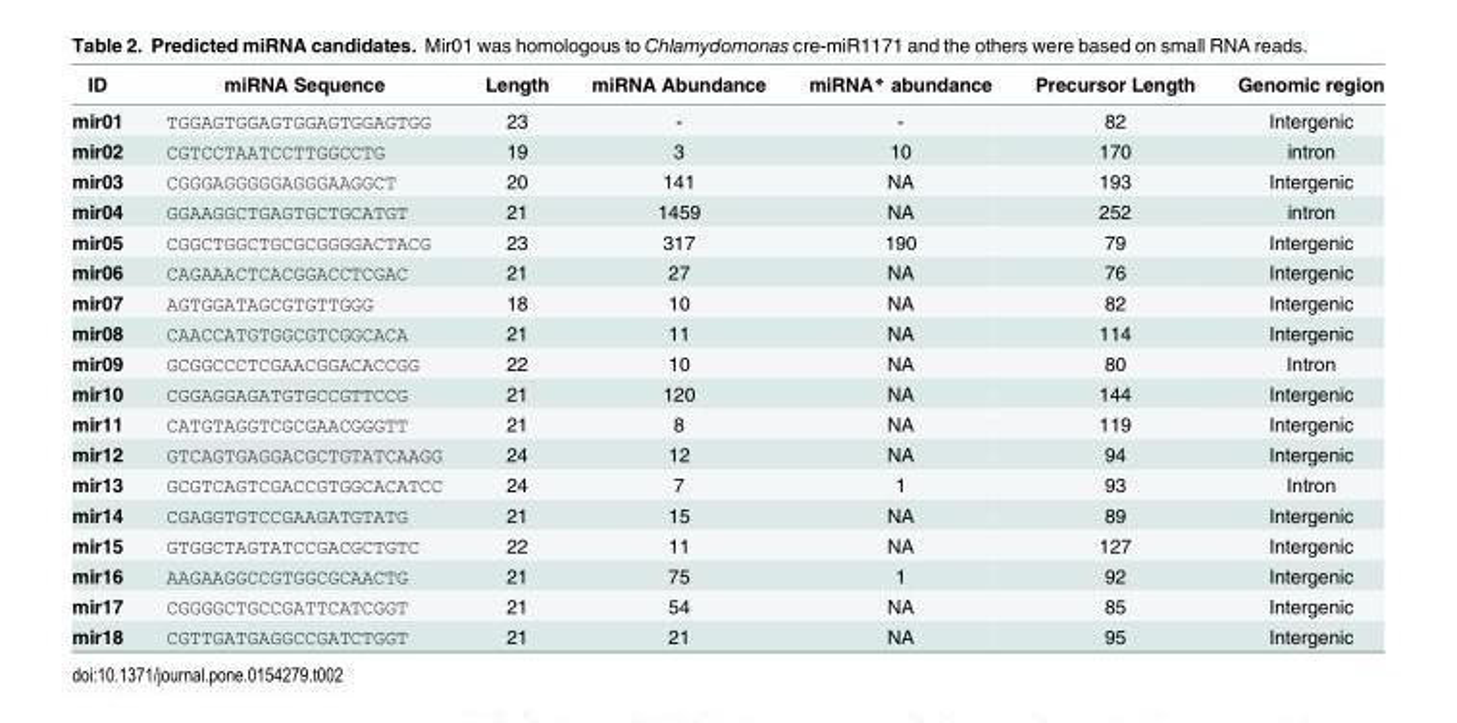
<table><thead><tr><td>ID</td><td>miRNA Sequence</td><td>Length</td><td>miRNA Abundance</td><td>miRNA* abundance</td><td>Precursor Length</td><td>Genomic region</td></tr></thead><tbody><tr><td>mir01</td><td>TGGAGTGGAGTGGAGTGGAGTGG</td><td>23</td><td>-</td><td>-</td><td>82</td><td>Intergenic</td></tr><tr><td>mir02</td><td>CGTCCTAATCCTTGGCCTG</td><td>19</td><td>3</td><td>10</td><td>170</td><td>intron</td></tr><tr><td>mir03</td><td>CGGGAGGGGGAGGGAAGGCT</td><td>20</td><td>141</td><td>NA</td><td>193</td><td>Intergenic</td></tr><tr><td>mir04</td><td>GGAAGGCTGAGTGCTGCATGT</td><td>21</td><td>1459</td><td>NA</td><td>252</td><td>intron</td></tr><tr><td>mir05</td><td>CGGCTGGCTGCGCGGGGACTACG</td><td>23</td><td>317</td><td>190</td><td>79</td><td>Intergenic</td></tr><tr><td>mir06</td><td>CAGAAACTCACGGACCTCGAC</td><td>21</td><td>27</td><td>NA</td><td>76</td><td>Intergenic</td></tr><tr><td>mir07</td><td>AGTGGATAGCGTGTTGGG</td><td>18</td><td>10</td><td>NA</td><td>82</td><td>Intergenic</td></tr><tr><td>mir08</td><td>CAACCATGTGGCGTCGGCACA</td><td>21</td><td>11</td><td>NA</td><td>114</td><td>Intergenic</td></tr><tr><td>mir09</td><td>GCGGCCCTCGAACGGACACCGG</td><td>22</td><td>10</td><td>NA</td><td>80</td><td>Intron</td></tr><tr><td>mir10</td><td>CGGAGGAGATGTGCCGTTCCG</td><td>21</td><td>120</td><td>NA</td><td>144</td><td>Intergenic</td></tr><tr><td>mir11</td><td>CATGTAGGTCGCGAACGGGTT</td><td>21</td><td>8</td><td>NA</td><td>119</td><td>Intergenic</td></tr><tr><td>mir12</td><td>GTCAGTGAGGACGCTGTATCAAGG</td><td>24</td><td>12</td><td>NA</td><td>94</td><td>Intergenic</td></tr><tr><td>mir13</td><td>GCGTCAGTCGACCGTGGCACATCC</td><td>24</td><td>7</td><td>1</td><td>93</td><td>Intron</td></tr><tr><td>mir14</td><td>CGAGGTGTCCGAAGATGTATG</td><td>21</td><td>15</td><td>NA</td><td>89</td><td>Intergenic</td></tr><tr><td>mir15</td><td>GTGGCTAGTATCCGACGCTGTC</td><td>22</td><td>11</td><td>NA</td><td>127</td><td>Intergenic</td></tr><tr><td>mir16</td><td>AAGAAGGCCGTGGCGCAACTG</td><td>21</td><td>75</td><td>1</td><td>92</td><td>Intergenic</td></tr><tr><td>mir17</td><td>CGGGGCTGCCGATTCATCGGT</td><td>21</td><td>54</td><td>NA</td><td>85</td><td>Intergenic</td></tr><tr><td>mir18</td><td>CGTTGATGAGGCCGATCTGGT</td><td>21</td><td>21</td><td>NA</td><td>95</td><td>Intergenic</td></tr></tbody></table>